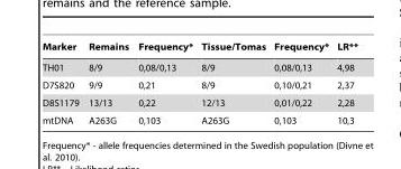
<table><thead><tr><td>Marker</td><td>Remains</td><td>Frequency*</td><td>Tissue/Tomas</td><td>Frequency*</td><td>LR**</td></tr></thead><tbody><tr><td>TH01</td><td>8/9</td><td>0,08/0,13</td><td>8/9</td><td>0,08/0,13</td><td>4,98</td></tr><tr><td>D7S820</td><td>9/9</td><td>0,21</td><td>8/9</td><td>0,10/0,21</td><td>2,37</td></tr><tr><td>D8S1179</td><td>13/13</td><td>0,22</td><td>12/13</td><td>0,01/0,22</td><td>2,28</td></tr><tr><td>mtDNA</td><td>A263G</td><td>0,103</td><td>A263G</td><td>0,103</td><td>10,3</td></tr></tbody></table>